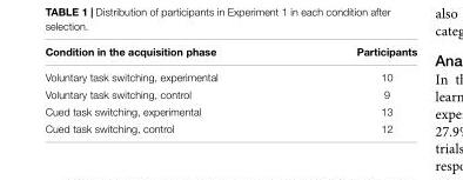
<table><thead><tr><td>Condition in the acquisition phase</td><td>Participants</td></tr></thead><tbody><tr><td>Voluntary task switching, experimental</td><td>10</td></tr><tr><td>Voluntary task switching, control</td><td>9</td></tr><tr><td>Cued task switching, experimental</td><td>13</td></tr><tr><td>Cued task switching, control</td><td>12</td></tr></tbody></table>